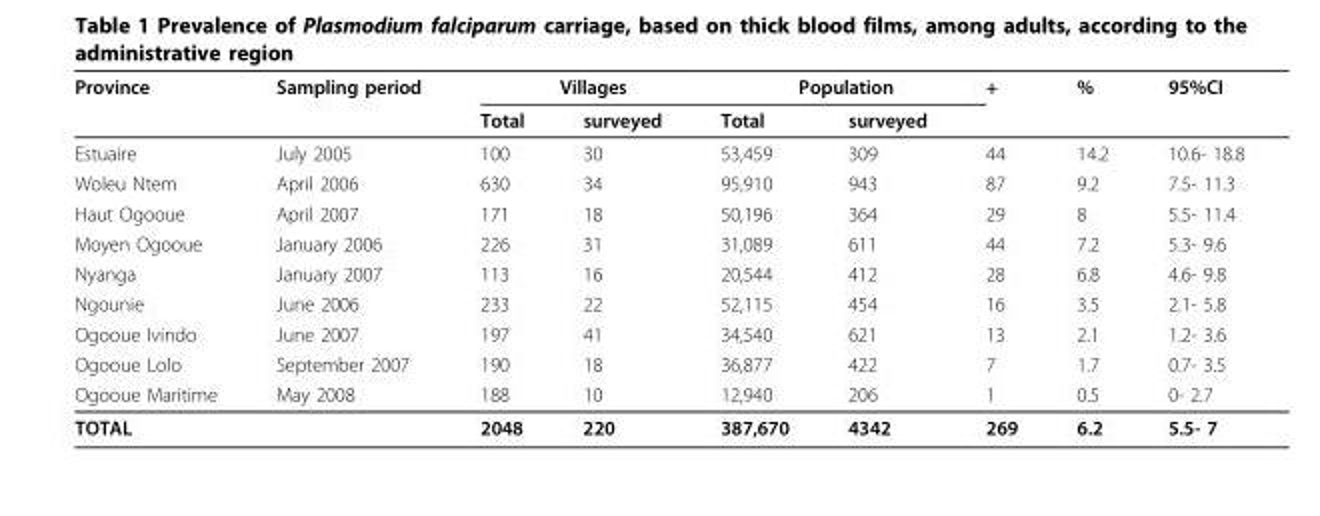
<table><thead><tr><td rowspan="2">Province</td><td rowspan="2">Sampling period</td><td colspan="2">Villages</td><td colspan="2">Population</td><td rowspan="2">+</td><td rowspan="2">%</td><td rowspan="2">95%CI</td></tr><tr><td>Total</td><td>surveyed</td><td>Total</td><td>surveyed</td></tr></thead><tbody><tr><td>Estuaire</td><td>July 2005</td><td>100</td><td>30</td><td>53,459</td><td>309</td><td>44</td><td>14.2</td><td>10.6- 18.8</td></tr><tr><td>Woleu Ntem</td><td>April 2006</td><td>630</td><td>34</td><td>95,910</td><td>943</td><td>87</td><td>9.2</td><td>7.5- 11.3</td></tr><tr><td>Haut Ogooue</td><td>April 2007</td><td>171</td><td>18</td><td>50,196</td><td>364</td><td>29</td><td>8</td><td>5.5- 11.4</td></tr><tr><td>Moyen Ogooue</td><td>January 2006</td><td>226</td><td>31</td><td>31,089</td><td>611</td><td>44</td><td>7.2</td><td>5.3- 9.6</td></tr><tr><td>Nyanga</td><td>January 2007</td><td>113</td><td>16</td><td>20,544</td><td>412</td><td>28</td><td>6.8</td><td>4.6- 9.8</td></tr><tr><td>Ngounie</td><td>June 2006</td><td>233</td><td>22</td><td>52,115</td><td>454</td><td>16</td><td>3.5</td><td>2.1- 5.8</td></tr><tr><td>Ogooue Ivindo</td><td>June 2007</td><td>197</td><td>41</td><td>34,540</td><td>621</td><td>13</td><td>2.1</td><td>1.2- 3.6</td></tr><tr><td>Ogooue Lolo</td><td>September 2007</td><td>190</td><td>18</td><td>36,877</td><td>422</td><td>7</td><td>1.7</td><td>0.7- 3.5</td></tr><tr><td>Ogooue Maritime</td><td>May 2008</td><td>188</td><td>10</td><td>12,940</td><td>206</td><td>1</td><td>0.5</td><td>0- 2.7</td></tr><tr><td>TOTAL</td><td></td><td>2048</td><td>220</td><td>387,670</td><td>4342</td><td>269</td><td>6.2</td><td>5.5- 7</td></tr></tbody></table>